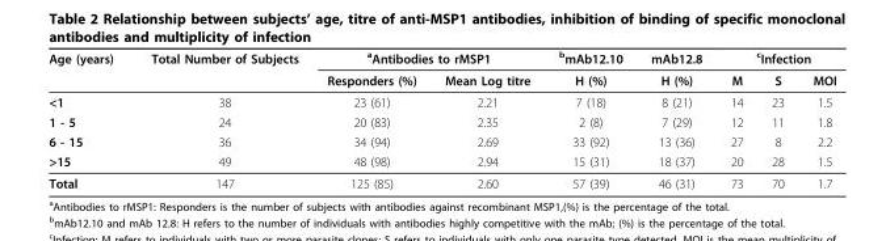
<table><thead><tr><td rowspan="2">Age (years)</td><td rowspan="2">Total Number of Subjects</td><td colspan="2"><sup>a</sup>Antibodies to rMSP1</td><td rowspan="2"><sup>b</sup>mAb12.10 H (%)</td><td rowspan="2">mAb12.8 H (%)</td><td colspan="3"><sup>c</sup>Infection</td></tr><tr><td>Responders (%)</td><td>Mean Log titre</td><td>M</td><td>S</td><td>MOI</td></tr></thead><tbody><tr><td>&lt;1</td><td>38</td><td>23 (61)</td><td>2.21</td><td>7 (18)</td><td>8 (21)</td><td>14</td><td>23</td><td>1.5</td></tr><tr><td>1 - 5</td><td>24</td><td>20 (83)</td><td>2.35</td><td>2 (8)</td><td>7 (29)</td><td>12</td><td>11</td><td>1.8</td></tr><tr><td>6 - 15</td><td>36</td><td>34 (94)</td><td>2.69</td><td>33 (92)</td><td>13 (36)</td><td>27</td><td>8</td><td>2.2</td></tr><tr><td>&gt;15</td><td>49</td><td>48 (98)</td><td>2.94</td><td>15 (31)</td><td>18 (37)</td><td>20</td><td>28</td><td>1.5</td></tr><tr><td>Total</td><td>147</td><td>125 (85)</td><td>2.60</td><td>57 (39)</td><td>46 (31)</td><td>73</td><td>70</td><td>1.7</td></tr></tbody></table>